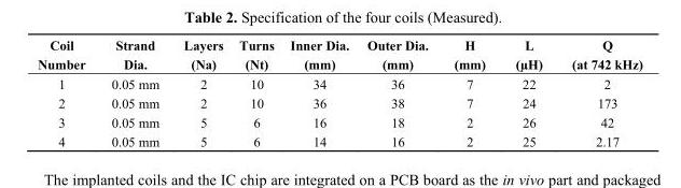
<table><thead><tr><td>Coil Number</td><td>Strand Dia.</td><td>Layers (Na)</td><td>Turns (Nt)</td><td>Inner Dia. (mm)</td><td>Outer Dia. (mm)</td><td>H (mm)</td><td>L (µH)</td><td>Q (at 742 kHz)</td></tr></thead><tbody><tr><td>1</td><td>0.05 mm</td><td>2</td><td>10</td><td>34</td><td>36</td><td>7</td><td>22</td><td>2</td></tr><tr><td>2</td><td>0.05 mm</td><td>2</td><td>10</td><td>36</td><td>38</td><td>7</td><td>24</td><td>173</td></tr><tr><td>3</td><td>0.05 mm</td><td>5</td><td>6</td><td>16</td><td>18</td><td>2</td><td>26</td><td>42</td></tr><tr><td>4</td><td>0.05 mm</td><td>5</td><td>6</td><td>14</td><td>16</td><td>2</td><td>25</td><td>2.17</td></tr></tbody></table>